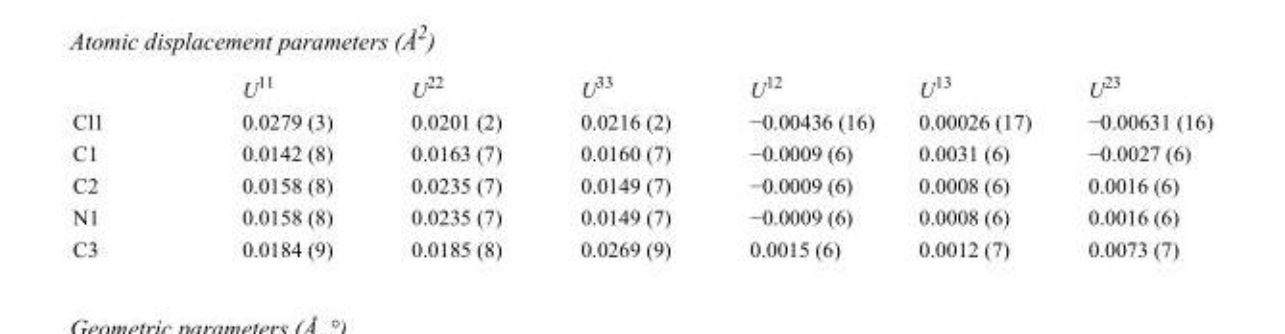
<table><thead><tr><td></td><td>U<sup>11</sup></td><td>U<sup>22</sup></td><td>U<sup>33</sup></td><td>U<sup>12</sup></td><td>U<sup>13</sup></td><td>U<sup>23</sup></td></tr></thead><tbody><tr><td>Cl1</td><td>0.0279 (3)</td><td>0.0201 (2)</td><td>0.0216 (2)</td><td>−0.00436 (16)</td><td>0.00026 (17)</td><td>−0.00631 (16)</td></tr><tr><td>C1</td><td>0.0142 (8)</td><td>0.0163 (7)</td><td>0.0160 (7)</td><td>−0.0009 (6)</td><td>0.0031 (6)</td><td>−0.0027 (6)</td></tr><tr><td>C2</td><td>0.0158 (8)</td><td>0.0235 (7)</td><td>0.0149 (7)</td><td>−0.0009 (6)</td><td>0.0008 (6)</td><td>0.0016 (6)</td></tr><tr><td>N1</td><td>0.0158 (8)</td><td>0.0235 (7)</td><td>0.0149 (7)</td><td>−0.0009 (6)</td><td>0.0008 (6)</td><td>0.0016 (6)</td></tr><tr><td>C3</td><td>0.0184 (9)</td><td>0.0185 (8)</td><td>0.0269 (9)</td><td>0.0015 (6)</td><td>0.0012 (7)</td><td>0.0073 (7)</td></tr></tbody></table>